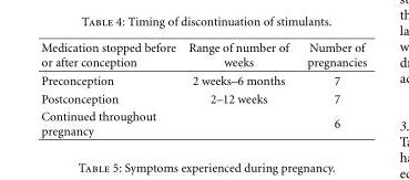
<table><thead><tr><td>Medication stopped before or after conception</td><td>Range of number of weeks</td><td>Number of pregnancies</td></tr></thead><tbody><tr><td>Preconception</td><td>2 weeks–6 months</td><td>7</td></tr><tr><td>Postconception</td><td>2–12 weeks</td><td>7</td></tr><tr><td>Continued throughout pregnancy</td><td></td><td>6</td></tr></tbody></table>